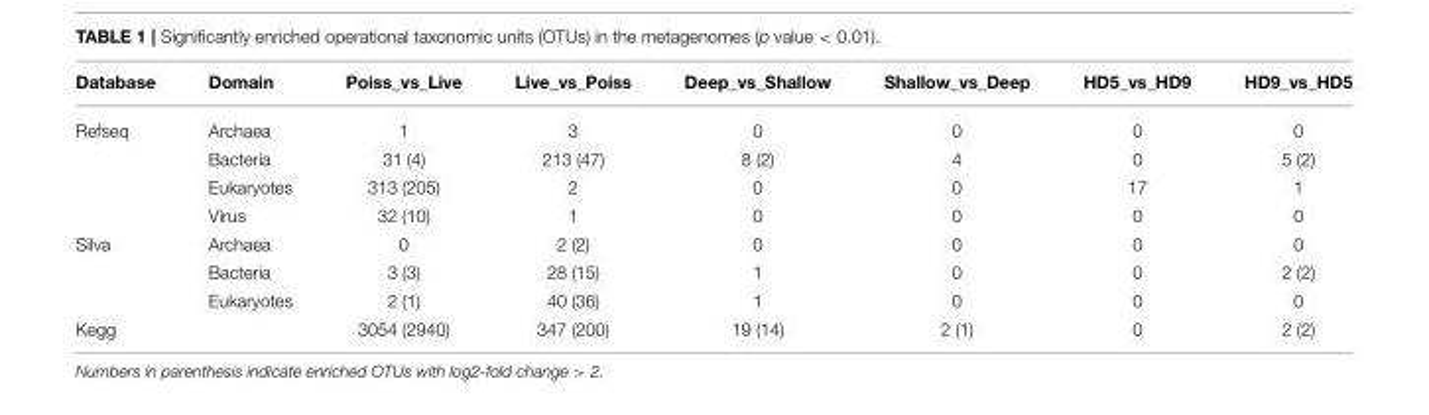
<table><thead><tr><td>Database</td><td>Domain</td><td>Poiss_vs_Live</td><td>Live_vs_Poiss</td><td>Deep_vs_Shallow</td><td>Shallow_vs_Deep</td><td>HD5_vs_HD9</td><td>HD9_vs_HD5</td></tr></thead><tbody><tr><td rowspan="4">Refseq</td><td>Archaea</td><td>1</td><td>3</td><td>0</td><td>0</td><td>0</td><td>0</td></tr><tr><td>Bacteria</td><td>31 (4)</td><td>213 (47)</td><td>8 (2)</td><td>4</td><td>0</td><td>5 (2)</td></tr><tr><td>Eukaryotes</td><td>313 (205)</td><td>2</td><td>0</td><td>0</td><td>17</td><td>1</td></tr><tr><td>Virus</td><td>32 (10)</td><td>1</td><td>0</td><td>0</td><td>0</td><td>0</td></tr><tr><td rowspan="3">Silva</td><td>Archaea</td><td>0</td><td>2 (2)</td><td>0</td><td>0</td><td>0</td><td>0</td></tr><tr><td>Bacteria</td><td>3 (3)</td><td>28 (15)</td><td>1</td><td>0</td><td>0</td><td>2 (2)</td></tr><tr><td>Eukaryotes</td><td>2 (1)</td><td>40 (36)</td><td>1</td><td>0</td><td>0</td><td>0</td></tr><tr><td>Kegg</td><td></td><td>3054 (2940)</td><td>347 (200)</td><td>19 (14)</td><td>2 (1)</td><td>0</td><td>2 (2)</td></tr></tbody></table>